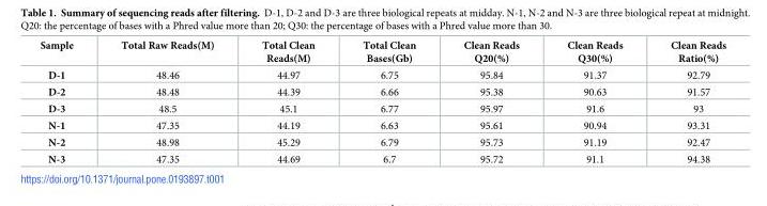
<table><thead><tr><td>Sample</td><td>Total Raw Reads(M)</td><td>Total Clean Reads(M)</td><td>Total Clean Bases(Gb)</td><td>Clean Reads Q20(%)</td><td>Clean Reads Q30(%)</td><td>Clean Reads Ratio(%)</td></tr></thead><tbody><tr><td>D-1</td><td>48.46</td><td>44.97</td><td>6.75</td><td>95.84</td><td>91.37</td><td>92.79</td></tr><tr><td>D-2</td><td>48.48</td><td>44.39</td><td>6.66</td><td>95.38</td><td>90.63</td><td>91.57</td></tr><tr><td>D-3</td><td>48.5</td><td>45.1</td><td>6.77</td><td>95.97</td><td>91.6</td><td>93</td></tr><tr><td>N-1</td><td>47.35</td><td>44.19</td><td>6.63</td><td>95.61</td><td>90.94</td><td>93.31</td></tr><tr><td>N-2</td><td>48.98</td><td>45.29</td><td>6.79</td><td>95.73</td><td>91.19</td><td>92.47</td></tr><tr><td>N-3</td><td>47.35</td><td>44.69</td><td>6.7</td><td>95.72</td><td>91.1</td><td>94.38</td></tr></tbody></table>